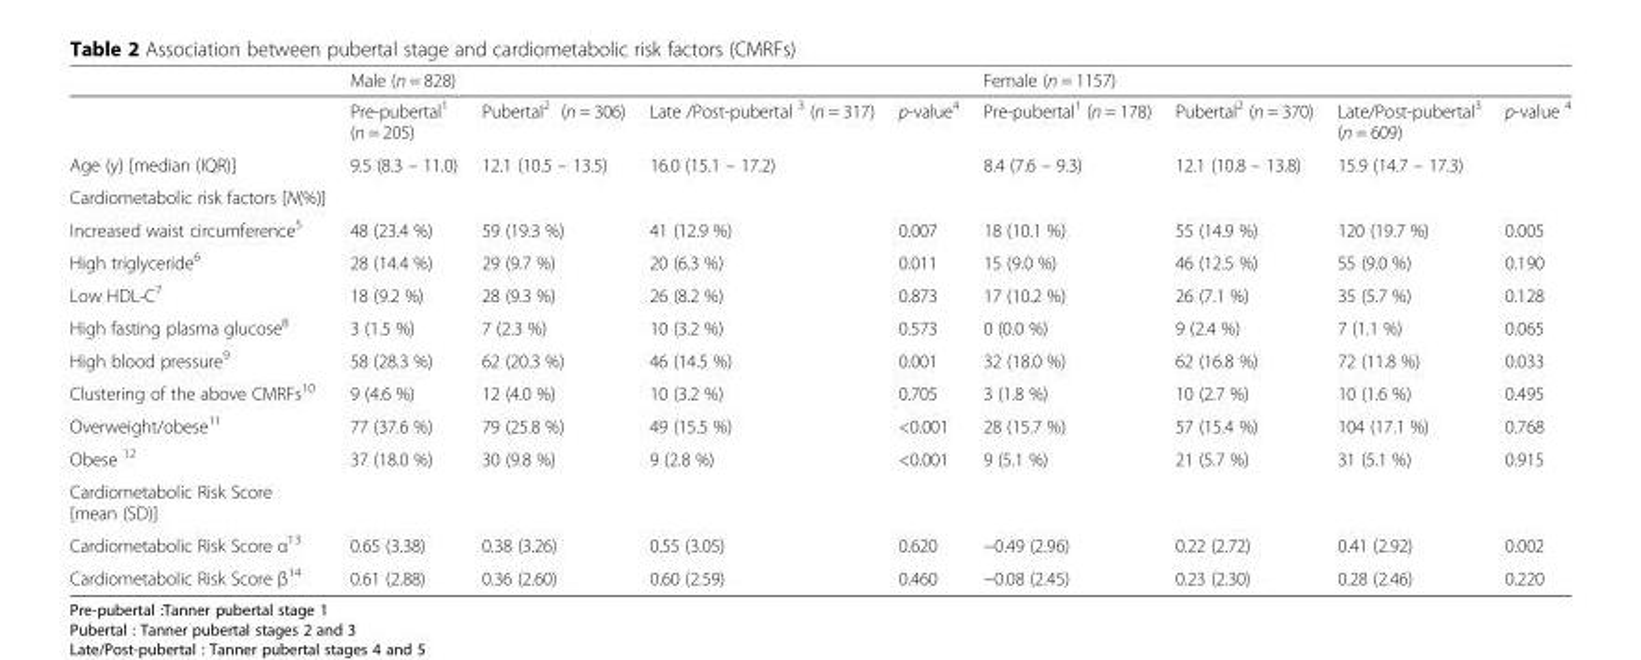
<table><thead><tr><td rowspan="2"></td><td colspan="4">Male (n = 828)</td><td colspan="4">Female (n = 1157)</td></tr><tr><td>Pre-pubertal<sup>1</sup> (n = 205)</td><td>Pubertal<sup>2</sup> (n = 306)</td><td>Late /Post-pubertal <sup>3</sup> (n = 317)</td><td>p-value<sup>4</sup></td><td>Pre-pubertal<sup>1</sup> (n = 178)</td><td>Pubertal<sup>2</sup> (n = 370)</td><td>Late/Post-pubertal<sup>3</sup> (n = 609)</td><td>p-value <sup>4</sup></td></tr></thead><tbody><tr><td>Age (y) [median (IQR)]</td><td>9.5 (8.3 – 11.0)</td><td>12.1 (10.5 – 13.5)</td><td>16.0 (15.1 – 17.2)</td><td></td><td>8.4 (7.6 – 9.3)</td><td>12.1 (10.8 – 13.8)</td><td>15.9 (14.7 – 17.3)</td><td></td></tr><tr><td colspan="9">Cardiometabolic risk factors [N(%)]</td></tr><tr><td>Increased waist circumference<sup>5</sup></td><td>48 (23.4 %)</td><td>59 (19.3 %)</td><td>41 (12.9 %)</td><td>0.007</td><td>18 (10.1 %)</td><td>55 (14.9 %)</td><td>120 (19.7 %)</td><td>0.005</td></tr><tr><td>High triglyceride<sup>6</sup></td><td>28 (14.4 %)</td><td>29 (9.7 %)</td><td>20 (6.3 %)</td><td>0.011</td><td>15 (9.0 %)</td><td>46 (12.5 %)</td><td>55 (9.0 %)</td><td>0.190</td></tr><tr><td>Low HDL-C<sup>7</sup></td><td>18 (9.2 %)</td><td>28 (9.3 %)</td><td>26 (8.2 %)</td><td>0.873</td><td>17 (10.2 %)</td><td>26 (7.1 %)</td><td>35 (5.7 %)</td><td>0.128</td></tr><tr><td>High fasting plasma glucose<sup>8</sup></td><td>3 (1.5 %)</td><td>7 (2.3 %)</td><td>10 (3.2 %)</td><td>0.573</td><td>0 (0.0 %)</td><td>9 (2.4 %)</td><td>7 (1.1 %)</td><td>0.065</td></tr><tr><td>High blood pressure<sup>9</sup></td><td>58 (28.3 %)</td><td>62 (20.3 %)</td><td>46 (14.5 %)</td><td>0.001</td><td>32 (18.0 %)</td><td>62 (16.8 %)</td><td>72 (11.8 %)</td><td>0.033</td></tr><tr><td>Clustering of the above CMRFs<sup>10</sup></td><td>9 (4.6 %)</td><td>12 (4.0 %)</td><td>10 (3.2 %)</td><td>0.705</td><td>3 (1.8 %)</td><td>10 (2.7 %)</td><td>10 (1.6 %)</td><td>0.495</td></tr><tr><td>Overweight/obese<sup>11</sup></td><td>77 (37.6 %)</td><td>79 (25.8 %)</td><td>49 (15.5 %)</td><td>&lt;0.001</td><td>28 (15.7 %)</td><td>57 (15.4 %)</td><td>104 (17.1 %)</td><td>0.768</td></tr><tr><td>Obese <sup>12</sup></td><td>37 (18.0 %)</td><td>30 (9.8 %)</td><td>9 (2.8 %)</td><td>&lt;0.001</td><td>9 (5.1 %)</td><td>21 (5.7 %)</td><td>31 (5.1 %)</td><td>0.915</td></tr><tr><td colspan="9">Cardiometabolic Risk Score [mean (SD)]</td></tr><tr><td>Cardiometabolic Risk Score α<sup>13</sup></td><td>0.65 (3.38)</td><td>0.38 (3.26)</td><td>0.55 (3.05)</td><td>0.620</td><td>−0.49 (2.96)</td><td>0.22 (2.72)</td><td>0.41 (2.92)</td><td>0.002</td></tr><tr><td>Cardiometabolic Risk Score β<sup>14</sup></td><td>0.61 (2.88)</td><td>0.36 (2.60)</td><td>0.60 (2.59)</td><td>0.460</td><td>−0.08 (2.45)</td><td>0.23 (2.30)</td><td>0.28 (2.46)</td><td>0.220</td></tr></tbody></table>